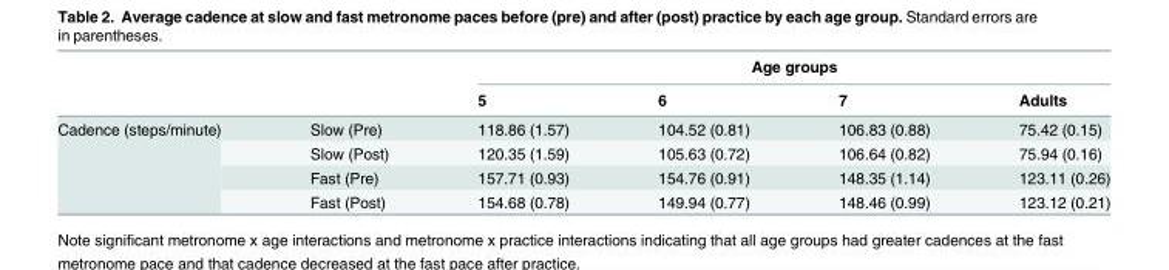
<table><thead><tr><td rowspan="2"></td><td rowspan="2"></td><td colspan="4">Age groups</td></tr><tr><td>5</td><td>6</td><td>7</td><td>Adults</td></tr></thead><tbody><tr><td rowspan="4">Cadence (steps/minute)</td><td>Slow (Pre)</td><td>118.86 (1.57)</td><td>104.52 (0.81)</td><td>106.83 (0.88)</td><td>75.42 (0.15)</td></tr><tr><td>Slow (Post)</td><td>120.35 (1.59)</td><td>105.63 (0.72)</td><td>106.64 (0.82)</td><td>75.94 (0.16)</td></tr><tr><td>Fast (Pre)</td><td>157.71 (0.93)</td><td>154.76 (0.91)</td><td>148.35 (1.14)</td><td>123.11 (0.26)</td></tr><tr><td>Fast (Post)</td><td>154.68 (0.78)</td><td>149.94 (0.77)</td><td>148.46 (0.99)</td><td>123.12 (0.21)</td></tr></tbody></table>